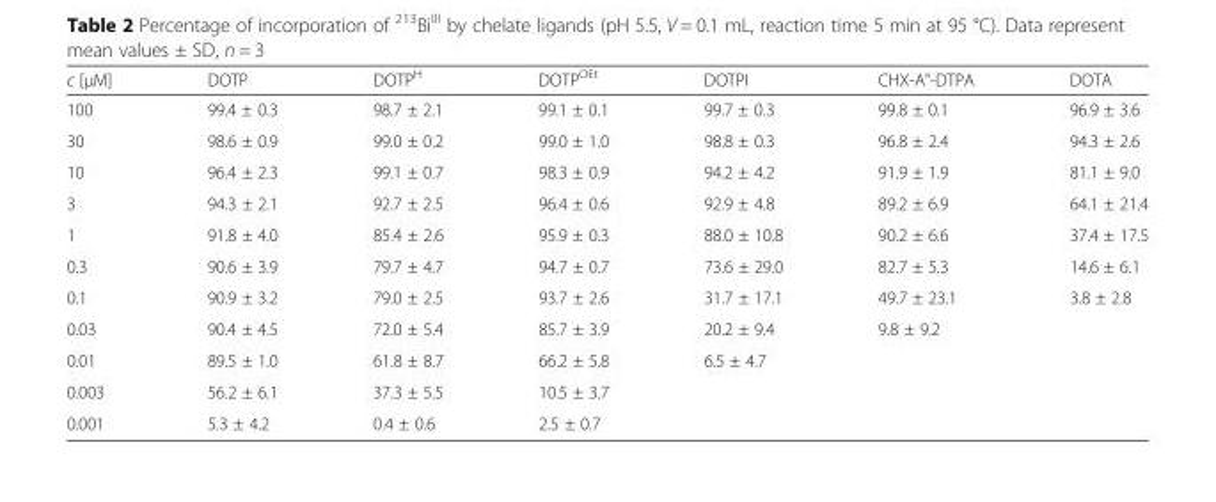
<table><thead><tr><td>c [μM]</td><td>DOTP</td><td>DOTP<sup>H</sup></td><td>DOTP<sup>OEt</sup></td><td>DOTPI</td><td>CHX-A&quot;-DTPA</td><td>DOTA</td></tr></thead><tbody><tr><td>100</td><td>99.4 ± 0.3</td><td>98.7 ± 2.1</td><td>99.1 ± 0.1</td><td>99.7 ± 0.3</td><td>99.8 ± 0.1</td><td>96.9 ± 3.6</td></tr><tr><td>30</td><td>98.6 ± 0.9</td><td>99.0 ± 0.2</td><td>99.0 ± 1.0</td><td>98.8 ± 0.3</td><td>96.8 ± 2.4</td><td>94.3 ± 2.6</td></tr><tr><td>10</td><td>96.4 ± 2.3</td><td>99.1 ± 0.7</td><td>98.3 ± 0.9</td><td>94.2 ± 4.2</td><td>91.9 ± 1.9</td><td>81.1 ± 9.0</td></tr><tr><td>3</td><td>94.3 ± 2.1</td><td>92.7 ± 2.5</td><td>96.4 ± 0.6</td><td>92.9 ± 4.8</td><td>89.2 ± 6.9</td><td>64.1 ± 21.4</td></tr><tr><td>1</td><td>91.8 ± 4.0</td><td>85.4 ± 2.6</td><td>95.9 ± 0.3</td><td>88.0 ± 10.8</td><td>90.2 ± 6.6</td><td>37.4 ± 17.5</td></tr><tr><td>0.3</td><td>90.6 ± 3.9</td><td>79.7 ± 4.7</td><td>94.7 ± 0.7</td><td>73.6 ± 29.0</td><td>82.7 ± 5.3</td><td>14.6 ± 6.1</td></tr><tr><td>0.1</td><td>90.9 ± 3.2</td><td>79.0 ± 2.5</td><td>93.7 ± 2.6</td><td>31.7 ± 17.1</td><td>49.7 ± 23.1</td><td rowspan="5">3.8 ± 2.8</td></tr><tr><td>0.03</td><td>90.4 ± 4.5</td><td>72.0 ± 5.4</td><td>85.7 ± 3.9</td><td>20.2 ± 9.4</td><td rowspan="4">9.8 ± 9.2</td></tr><tr><td>0.01</td><td>89.5 ± 1.0</td><td>61.8 ± 8.7</td><td>66.2 ± 5.8</td><td rowspan="3">6.5 ± 4.7</td></tr><tr><td>0.003</td><td>56.2 ± 6.1</td><td>37.3 ± 5.5</td><td>10.5 ± 3.7</td></tr><tr><td>0.001</td><td>5.3 ± 4.2</td><td>0.4 ± 0.6</td><td>2.5 ± 0.7</td></tr></tbody></table>